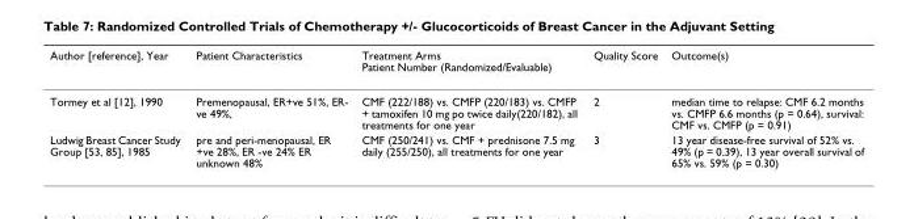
<table><thead><tr><td>Author [reference], Year</td><td>Patient Characteristics</td><td>Treatment Arms Patient Number (Randomized/Evaluable)</td><td>Quality Score</td><td>Outcome(s)</td></tr></thead><tbody><tr><td>Tormey et al [12], 1990</td><td>Premenopausal, ER+ve 51%, ER- ve 49%,</td><td>CMF (222/188) vs. CMFP (220/183) vs. CMFP + tamoxifen 10 mg po twice daily(220/182), all treatments for one year</td><td>2</td><td>median time to relapse: CMF 6.2 months vs. CMFP 6.6 months (p = 0.64), survival: CMF vs. CMFP (p = 0.91)</td></tr><tr><td>Ludwig Breast Cancer Study Group [53, 85], 1985</td><td>pre and peri-menopausal, ER +ve 28%, ER -ve 24% ER unknown 48%</td><td>CMF (250/241) vs. CMF + prednisone 7.5 mg daily (255/250), all treatments for one year</td><td>3</td><td>13 year disease-free survival of 52% vs. 49% (p = 0.39), 13 year overall survival of 65% vs. 59% (p = 0.30)</td></tr></tbody></table>